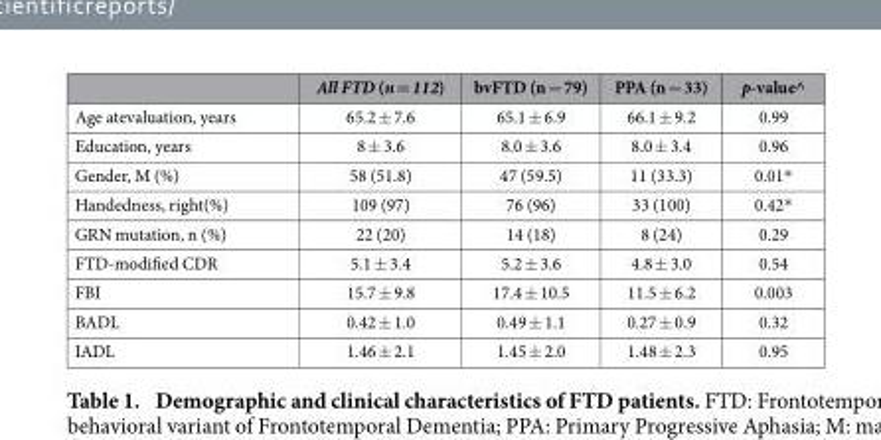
<table><thead><tr><td></td><td>All FTD (n = 112)</td><td>bvFTD (n = 79)</td><td>PPA (n = 33)</td><td>p-value^</td></tr></thead><tbody><tr><td>Age atevaluation, years</td><td>65.2 ± 7.6</td><td>65.1 ± 6.9</td><td>66.1 ± 9.2</td><td>0.99</td></tr><tr><td>Education, years</td><td>8 ± 3.6</td><td>8.0 ± 3.6</td><td>8.0 ± 3.4</td><td>0.96</td></tr><tr><td>Gender, M (%)</td><td>58 (51.8)</td><td>47 (59.5)</td><td>11 (33.3)</td><td>0.01*</td></tr><tr><td>Handedness, right(%)</td><td>109 (97)</td><td>76 (96)</td><td>33 (100)</td><td>0.42*</td></tr><tr><td>GRN mutation, n (%)</td><td>22 (20)</td><td>14 (18)</td><td>8 (24)</td><td>0.29</td></tr><tr><td>FTD-modified CDR</td><td>5.1 ± 3.4</td><td>5.2 ± 3.6</td><td>4.8 ± 3.0</td><td>0.54</td></tr><tr><td>FBI</td><td>15.7 ± 9.8</td><td>17.4 ± 10.5</td><td>11.5 ± 6.2</td><td>0.003</td></tr><tr><td>BADL</td><td>0.42 ± 1.0</td><td>0.49 ± 1.1</td><td>0.27 ± 0.9</td><td>0.32</td></tr><tr><td>IADL</td><td>1.46 ± 2.1</td><td>1.45 ± 2.0</td><td>1.48 ± 2.3</td><td>0.95</td></tr></tbody></table>